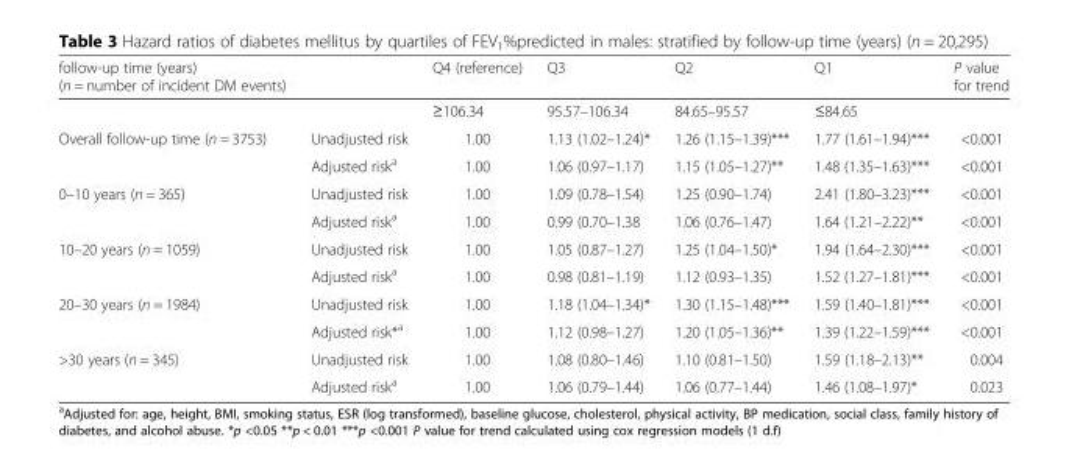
<table><thead><tr><td>follow-up time (years) (n = number of incident DM events)</td><td></td><td>Q4 (reference)</td><td>Q3</td><td>Q2</td><td>Q1</td><td>P value for trend</td></tr></thead><tbody><tr><td></td><td></td><td>≥106.34</td><td>95.57–106.34</td><td>84.65–95.57</td><td>≤84.65</td><td></td></tr><tr><td rowspan="2">Overall follow-up time (n = 3753)</td><td>Unadjusted risk</td><td>1.00</td><td>1.13 (1.02–1.24)*</td><td>1.26 (1.15–1.39)***</td><td>1.77 (1.61–1.94)***</td><td>&lt;0.001</td></tr><tr><td>Adjusted risk<sup>a</sup></td><td>1.00</td><td>1.06 (0.97–1.17)</td><td>1.15 (1.05–1.27)**</td><td>1.48 (1.35–1.63)***</td><td>&lt;0.001</td></tr><tr><td rowspan="2">0–10 years (n = 365)</td><td>Unadjusted risk</td><td>1.00</td><td>1.09 (0.78–1.54)</td><td>1.25 (0.90–1.74)</td><td>2.41 (1.80–3.23)***</td><td>&lt;0.001</td></tr><tr><td>Adjusted risk<sup>a</sup></td><td>1.00</td><td>0.99 (0.70–1.38</td><td>1.06 (0.76–1.47)</td><td>1.64 (1.21–2.22)**</td><td>&lt;0.001</td></tr><tr><td rowspan="2">10–20 years (n = 1059)</td><td>Unadjusted risk</td><td>1.00</td><td>1.05 (0.87–1.27)</td><td>1.25 (1.04–1.50)*</td><td>1.94 (1.64–2.30)***</td><td>&lt;0.001</td></tr><tr><td>Adjusted risk<sup>a</sup></td><td>1.00</td><td>0.98 (0.81–1.19)</td><td>1.12 (0.93–1.35)</td><td>1.52 (1.27–1.81)***</td><td>&lt;0.001</td></tr><tr><td rowspan="2">20–30 years (n = 1984)</td><td>Unadjusted risk</td><td>1.00</td><td>1.18 (1.04–1.34)*</td><td>1.30 (1.15–1.48)***</td><td>1.59 (1.40–1.81)***</td><td>&lt;0.001</td></tr><tr><td>Adjusted risk*<sup>a</sup></td><td>1.00</td><td>1.12 (0.98–1.27)</td><td>1.20 (1.05–1.36)**</td><td>1.39 (1.22–1.59)***</td><td>&lt;0.001</td></tr><tr><td rowspan="2">&gt;30 years (n = 345)</td><td>Unadjusted risk</td><td>1.00</td><td>1.08 (0.80–1.46)</td><td>1.10 (0.81–1.50)</td><td>1.59 (1.18–2.13)**</td><td>0.004</td></tr><tr><td>Adjusted risk<sup>a</sup></td><td>1.00</td><td>1.06 (0.79–1.44)</td><td>1.06 (0.77–1.44)</td><td>1.46 (1.08–1.97)*</td><td>0.023</td></tr></tbody></table>